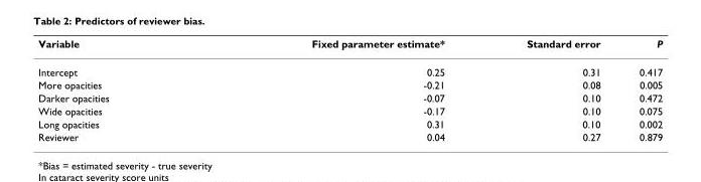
<table><thead><tr><td>Variable</td><td>Fixed parameter estimate*</td><td>Standard error</td><td>P</td></tr></thead><tbody><tr><td>Intercept</td><td>0.25</td><td>0.31</td><td>0.417</td></tr><tr><td>More opacities</td><td>-0.21</td><td>0.08</td><td>0.005</td></tr><tr><td>Darker opacities</td><td>-0.07</td><td>0.10</td><td>0.472</td></tr><tr><td>Wide opacities</td><td>-0.17</td><td>0.10</td><td>0.075</td></tr><tr><td>Long opacities</td><td>0.31</td><td>0.10</td><td>0.002</td></tr><tr><td>Reviewer</td><td>0.04</td><td>0.27</td><td>0.879</td></tr></tbody></table>